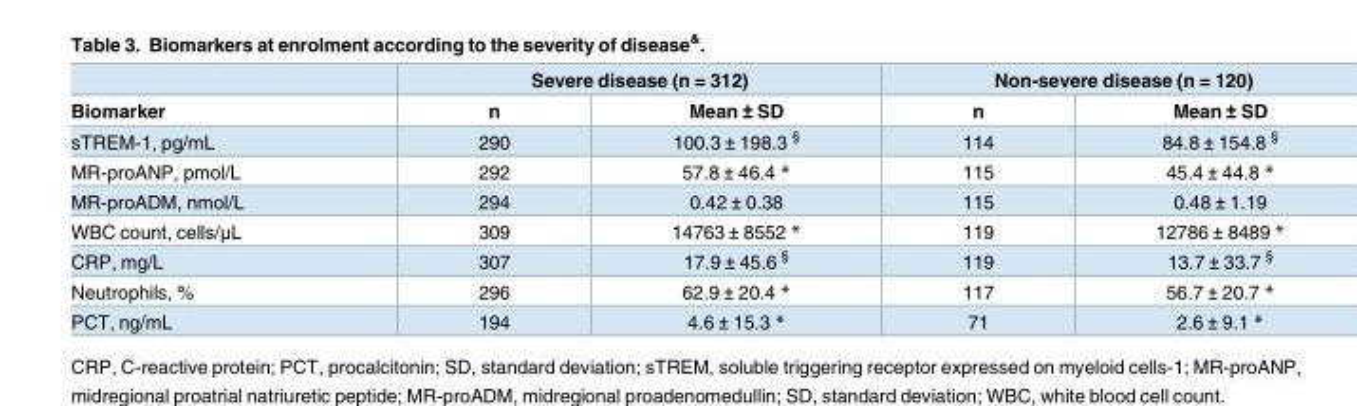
<table><thead><tr><td rowspan="2">Biomarker</td><td colspan="2">Severe disease (n = 312)</td><td colspan="2">Non-severe disease (n = 120)</td></tr><tr><td>n</td><td>Mean ± SD</td><td>n</td><td>Mean ± SD</td></tr></thead><tbody><tr><td>sTREM-1, pg/mL</td><td>290</td><td>100.3 ± 198.3 <sup>§</sup></td><td>114</td><td>84.8 ± 154.8 <sup>§</sup></td></tr><tr><td>MR-proANP, pmol/L</td><td>292</td><td>57.8 ± 46.4 *</td><td>115</td><td>45.4 ± 44.8 *</td></tr><tr><td>MR-proADM, nmol/L</td><td>294</td><td>0.42 ± 0.38</td><td>115</td><td>0.48 ± 1.19</td></tr><tr><td>WBC count, cells/μL</td><td>309</td><td>14763 ± 8552 *</td><td>119</td><td>12786 ± 8489 *</td></tr><tr><td>CRP, mg/L</td><td>307</td><td>17.9 ± 45.6 <sup>§</sup></td><td>119</td><td>13.7 ± 33.7 <sup>§</sup></td></tr><tr><td>Neutrophils, %</td><td>296</td><td>62.9 ± 20.4 *</td><td>117</td><td>56.7 ± 20.7 *</td></tr><tr><td>PCT, ng/mL</td><td>194</td><td>4.6 ± 15.3 *</td><td>71</td><td>2.6 ± 9.1 *</td></tr></tbody></table>